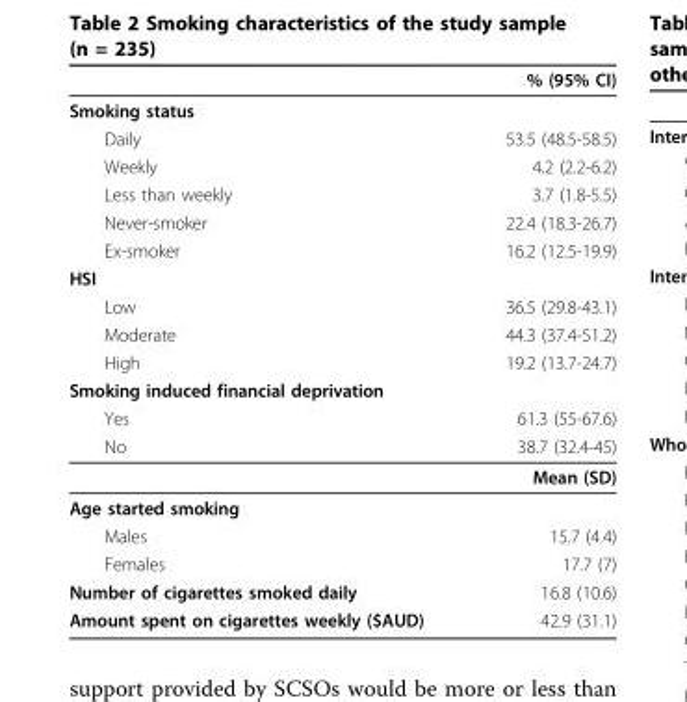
<table><thead><tr><td></td><td>% (95% CI)</td></tr></thead><tbody><tr><td colspan="2">Smoking status</td></tr><tr><td>Daily</td><td>53.5 (48.5-58.5)</td></tr><tr><td>Weekly</td><td>4.2 (2.2-6.2)</td></tr><tr><td>Less than weekly</td><td>3.7 (1.8-5.5)</td></tr><tr><td>Never-smoker</td><td>22.4 (18.3-26.7)</td></tr><tr><td>Ex-smoker</td><td>16.2 (12.5-19.9)</td></tr><tr><td colspan="2">HSI</td></tr><tr><td>Low</td><td>36.5 (29.8-43.1)</td></tr><tr><td>Moderate</td><td>44.3 (37.4-51.2)</td></tr><tr><td>High</td><td>19.2 (13.7-24.7)</td></tr><tr><td colspan="2">Smoking induced financial deprivation</td></tr><tr><td>Yes</td><td>61.3 (55-67.6)</td></tr><tr><td rowspan="2">No</td><td>38.7 (32.4-45)</td></tr><tr><td>Mean (SD)</td></tr><tr><td colspan="2">Age started smoking</td></tr><tr><td>Males</td><td>15.7 (4.4)</td></tr><tr><td>Females</td><td>17.7 (7)</td></tr><tr><td>Number of cigarettes smoked daily</td><td>16.8 (10.6)</td></tr><tr><td>Amount spent on cigarettes weekly ($AUD)</td><td>42.9 (31.1)</td></tr></tbody></table>